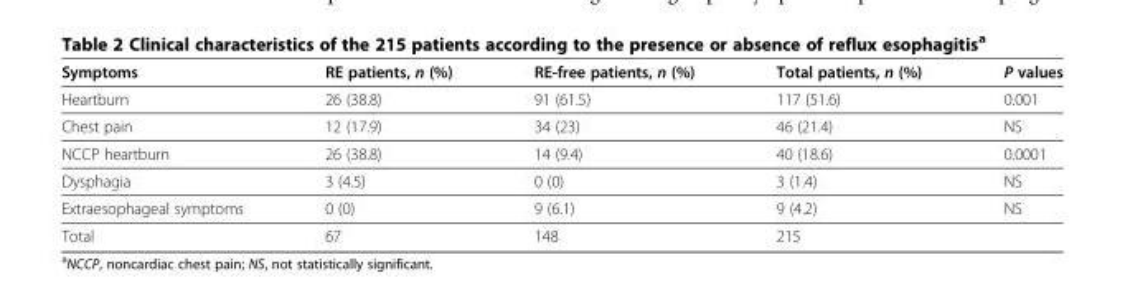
<table><thead><tr><td>Symptoms</td><td>RE patients, n (%)</td><td>RE-free patients, n (%)</td><td>Total patients, n (%)</td><td>P values</td></tr></thead><tbody><tr><td>Heartburn</td><td>26 (38.8)</td><td>91 (61.5)</td><td>117 (51.6)</td><td>0.001</td></tr><tr><td>Chest pain</td><td>12 (17.9)</td><td>34 (23)</td><td>46 (21.4)</td><td>NS</td></tr><tr><td>NCCP heartburn</td><td>26 (38.8)</td><td>14 (9.4)</td><td>40 (18.6)</td><td>0.0001</td></tr><tr><td>Dysphagia</td><td>3 (4.5)</td><td>0 (0)</td><td>3 (1.4)</td><td>NS</td></tr><tr><td>Extraesophageal symptoms</td><td>0 (0)</td><td>9 (6.1)</td><td>9 (4.2)</td><td>NS</td></tr><tr><td>Total</td><td>67</td><td>148</td><td>215</td><td></td></tr></tbody></table>